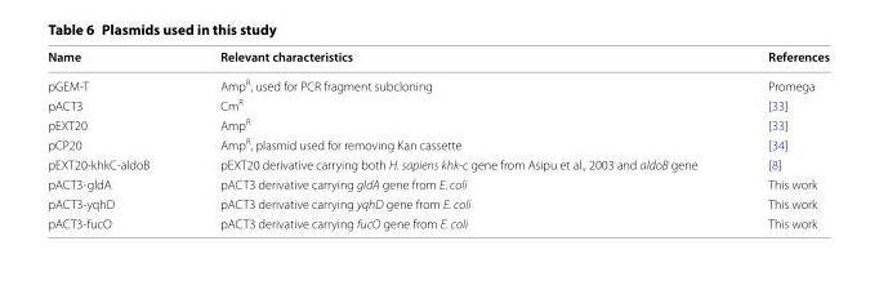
<table><thead><tr><td>Name</td><td>Relevant characteristics</td><td>References</td></tr></thead><tbody><tr><td>pGEM-T</td><td>Amp<sup>R</sup>, used for PCR fragment subcloning</td><td>Promega</td></tr><tr><td>pACT3</td><td>Cm<sup>R</sup></td><td>[33]</td></tr><tr><td>pEXT20</td><td>Amp<sup>R</sup></td><td>[33]</td></tr><tr><td>pCP20</td><td>Amp<sup>R</sup>, plasmid used for removing Kan cassette</td><td>[34]</td></tr><tr><td>pEXT20-khkC-aldoB</td><td>pEXT20 derivative carrying both H. sapiens khk-c gene from Asipu et al., 2003 and aldoB gene</td><td>[8]</td></tr><tr><td>pACT3-gldA</td><td>pACT3 derivative carrying gldA gene from E. coli</td><td>This work</td></tr><tr><td>pACT3-yqhD</td><td>pACT3 derivative carrying yqhD gene from E. coli</td><td>This work</td></tr><tr><td>pACT3-fucO</td><td>pACT3 derivative carrying fucO gene from E. coli</td><td>This work</td></tr></tbody></table>